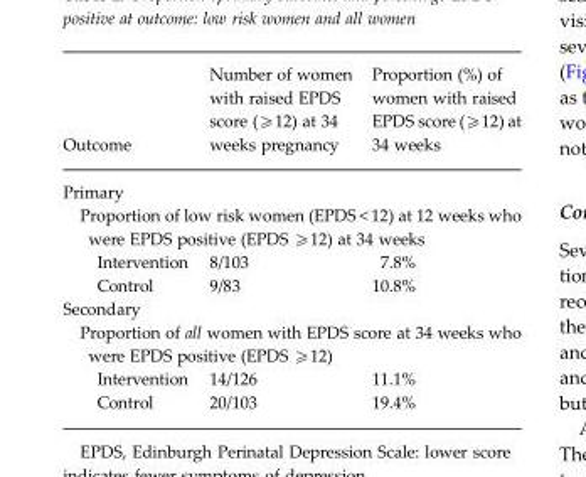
<table><thead><tr><td>Outcome</td><td>Number of women with raised EPDS score (⩾12) at 34 weeks pregnancy</td><td>Proportion (%) of women with raised EPDS score (⩾12) at 34 weeks</td></tr></thead><tbody><tr><td colspan="3">Primary</td></tr><tr><td colspan="3">Proportion of low risk women (EPDS &lt; 12) at 12 weeks who were EPDS positive (EPDS ⩾12) at 34 weeks</td></tr><tr><td>Intervention</td><td>8/103</td><td>7.8%</td></tr><tr><td>Control</td><td>9/83</td><td>10.8%</td></tr><tr><td colspan="3">Secondary</td></tr><tr><td colspan="3">Proportion of all women with EPDS score at 34 weeks who were EPDS positive (EPDS ⩾12)</td></tr><tr><td>Intervention</td><td>14/126</td><td>11.1%</td></tr><tr><td>Control</td><td>20/103</td><td>19.4%</td></tr></tbody></table>